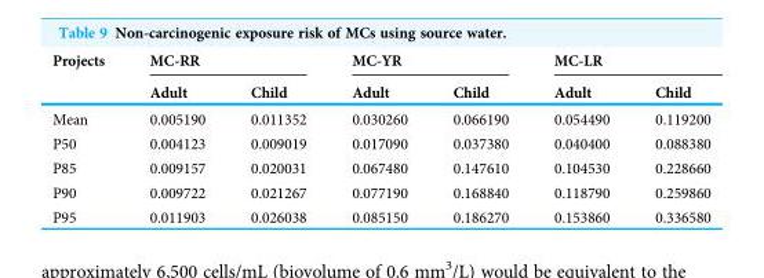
<table><thead><tr><td rowspan="2">Projects</td><td colspan="2">MC-RR</td><td colspan="2">MC-YR</td><td colspan="2">MC-LR</td></tr><tr><td>Adult</td><td>Child</td><td>Adult</td><td>Child</td><td>Adult</td><td>Child</td></tr></thead><tbody><tr><td>Mean</td><td>0.005190</td><td>0.011352</td><td>0.030260</td><td>0.066190</td><td>0.054490</td><td>0.119200</td></tr><tr><td>P50</td><td>0.004123</td><td>0.009019</td><td>0.017090</td><td>0.037380</td><td>0.040400</td><td>0.088380</td></tr><tr><td>P85</td><td>0.009157</td><td>0.020031</td><td>0.067480</td><td>0.147610</td><td>0.104530</td><td>0.228660</td></tr><tr><td>P90</td><td>0.009722</td><td>0.021267</td><td>0.077190</td><td>0.168840</td><td>0.118790</td><td>0.259860</td></tr><tr><td>P95</td><td>0.011903</td><td>0.026038</td><td>0.085150</td><td>0.186270</td><td>0.153860</td><td>0.336580</td></tr></tbody></table>